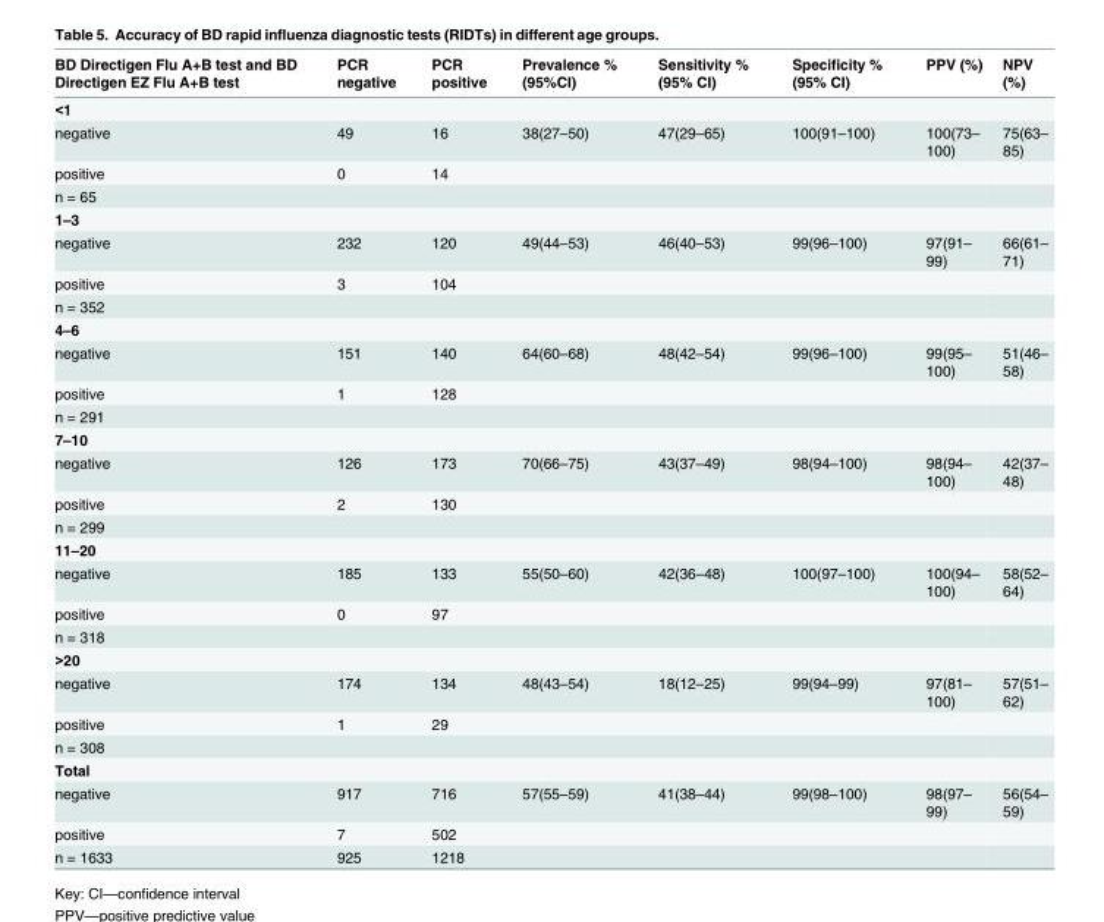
<table><thead><tr><td>BD Directigen Flu A+B test and BD Directigen EZ Flu A+B test</td><td>PCR negative</td><td>PCR positive</td><td>Prevalence % (95%CI)</td><td>Sensitivity % (95% CI)</td><td>Specificity % (95% CI)</td><td>PPV (%)</td><td>NPV (%)</td></tr></thead><tbody><tr><td colspan="8">&lt;1</td></tr><tr><td>negative</td><td>49</td><td>16</td><td>38(27–50)</td><td>47(29–65)</td><td>100(91–100)</td><td>100(73– 100)</td><td>75(63– 85)</td></tr><tr><td>positive</td><td>0</td><td>14</td><td></td><td></td><td></td><td></td><td></td></tr><tr><td colspan="8">n = 65</td></tr><tr><td colspan="8">1–3</td></tr><tr><td>negative</td><td>232</td><td>120</td><td>49(44–53)</td><td>46(40–53)</td><td>99(96–100)</td><td>97(91– 99)</td><td>66(61– 71)</td></tr><tr><td>positive</td><td>3</td><td>104</td><td></td><td></td><td></td><td></td><td></td></tr><tr><td colspan="8">n = 352</td></tr><tr><td colspan="8">4–6</td></tr><tr><td>negative</td><td>151</td><td>140</td><td>64(60–68)</td><td>48(42–54)</td><td>99(96–100)</td><td>99(95– 100)</td><td>51(46– 58)</td></tr><tr><td>positive</td><td>1</td><td>128</td><td></td><td></td><td></td><td></td><td></td></tr><tr><td colspan="8">n = 291</td></tr><tr><td colspan="8">7–10</td></tr><tr><td>negative</td><td>126</td><td>173</td><td>70(66–75)</td><td>43(37–49)</td><td>98(94–100)</td><td>98(94– 100)</td><td>42(37– 48)</td></tr><tr><td>positive</td><td>2</td><td>130</td><td></td><td></td><td></td><td></td><td></td></tr><tr><td colspan="8">n = 299</td></tr><tr><td colspan="8">11–20</td></tr><tr><td>negative</td><td>185</td><td>133</td><td>55(50–60)</td><td>42(36–48)</td><td>100(97–100)</td><td>100(94– 100)</td><td>58(52– 64)</td></tr><tr><td>positive</td><td>0</td><td>97</td><td></td><td></td><td></td><td></td><td></td></tr><tr><td colspan="8">n = 318</td></tr><tr><td colspan="8">&gt;20</td></tr><tr><td>negative</td><td>174</td><td>134</td><td>48(43–54)</td><td>18(12–25)</td><td>99(94–99)</td><td>97(81– 100)</td><td>57(51– 62)</td></tr><tr><td>positive</td><td>1</td><td>29</td><td></td><td></td><td></td><td></td><td></td></tr><tr><td colspan="8">n = 308</td></tr><tr><td colspan="8">Total</td></tr><tr><td>negative</td><td>917</td><td>716</td><td>57(55–59)</td><td>41(38–44)</td><td>99(98–100)</td><td>98(97– 99)</td><td>56(54– 59)</td></tr><tr><td>positive</td><td>7</td><td>502</td><td></td><td></td><td></td><td></td><td></td></tr><tr><td>n = 1633</td><td>925</td><td>1218</td><td></td><td></td><td></td><td></td><td></td></tr></tbody></table>